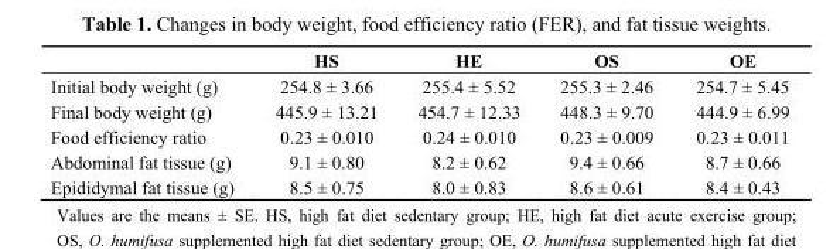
<table><thead><tr><td></td><td>HS</td><td>HE</td><td>OS</td><td>OE</td></tr></thead><tbody><tr><td>Initial body weight (g)</td><td>254.8 ± 3.66</td><td>255.4 ± 5.52</td><td>255.3 ± 2.46</td><td>254.7 ± 5.45</td></tr><tr><td>Final body weight (g)</td><td>445.9 ± 13.21</td><td>454.7 ± 12.33</td><td>448.3 ± 9.70</td><td>444.9 ± 6.99</td></tr><tr><td>Food efficiency ratio</td><td>0.23 ± 0.010</td><td>0.24 ± 0.010</td><td>0.23 ± 0.009</td><td>0.23 ± 0.011</td></tr><tr><td>Abdominal fat tissue (g)</td><td>9.1 ± 0.80</td><td>8.2 ± 0.62</td><td>9.4 ± 0.66</td><td>8.7 ± 0.66</td></tr><tr><td>Epididymal fat tissue (g)</td><td>8.5 ± 0.75</td><td>8.0 ± 0.83</td><td>8.6 ± 0.61</td><td>8.4 ± 0.43</td></tr></tbody></table>